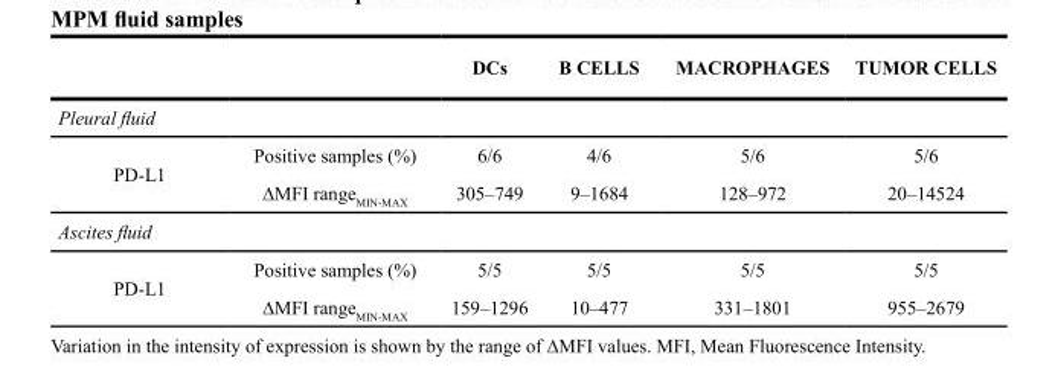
<table><thead><tr><td></td><td></td><td>DCs</td><td>B CELLS</td><td>MACROPHAGES</td><td>TUMOR CELLS</td></tr></thead><tbody><tr><td colspan="6">Pleural fluid</td></tr><tr><td rowspan="2">PD-L1</td><td>Positive samples (%)</td><td>6/6</td><td>4/6</td><td>5/6</td><td>5/6</td></tr><tr><td>∆MFI rangeMIN-MAX</td><td>305–749</td><td>9–1684</td><td>128–972</td><td>20–14524</td></tr><tr><td colspan="6">Ascites fluid</td></tr><tr><td rowspan="2">PD-L1</td><td>Positive samples (%)</td><td>5/5</td><td>5/5</td><td>5/5</td><td>5/5</td></tr><tr><td>∆MFI rangeMIN-MAX</td><td>159–1296</td><td>10–477</td><td>331–1801</td><td>955–2679</td></tr></tbody></table>